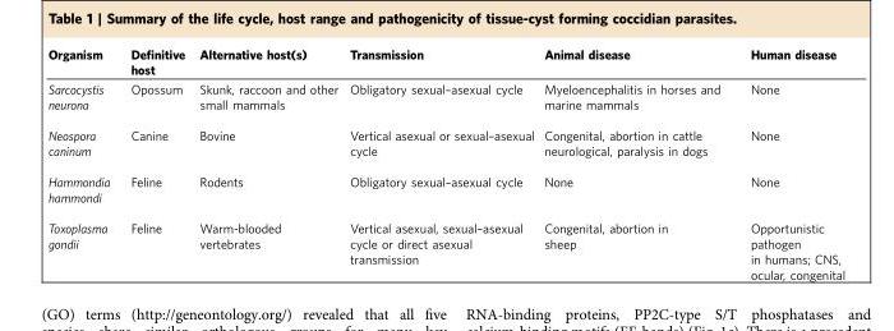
<table><thead><tr><td>Organism</td><td>Definitive host</td><td>Alternative host(s)</td><td>Transmission</td><td>Animal disease</td><td>Human disease</td></tr></thead><tbody><tr><td>Sarcocystis neurona</td><td>Opossum</td><td>Skunk, raccoon and other small mammals</td><td>Obligatory sexual–asexual cycle</td><td>Myeloencephalitis in horses and marine mammals</td><td>None</td></tr><tr><td>Neospora caninum</td><td>Canine</td><td>Bovine</td><td>Vertical asexual or sexual–asexual cycle</td><td>Congenital, abortion in cattle neurological, paralysis in dogs</td><td>None</td></tr><tr><td>Hammondia hammondi</td><td>Feline</td><td>Rodents</td><td>Obligatory sexual–asexual cycle</td><td>None</td><td>None</td></tr><tr><td>Toxoplasma gondii</td><td>Feline</td><td>Warm-blooded vertebrates</td><td>Vertical asexual, sexual–asexual cycle or direct asexual transmission</td><td>Congenital, abortion in sheep</td><td>Opportunistic pathogen in humans; CNS, ocular, congenital</td></tr></tbody></table>